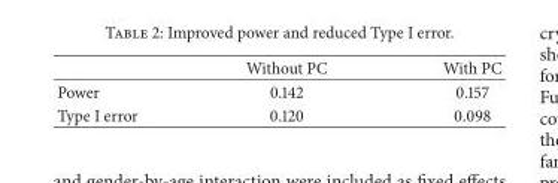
<table><thead><tr><td></td><td>Without PC</td><td>With PC</td></tr></thead><tbody><tr><td>Power</td><td>0.142</td><td>0.157</td></tr><tr><td>Type I error</td><td>0.120</td><td>0.098</td></tr></tbody></table>